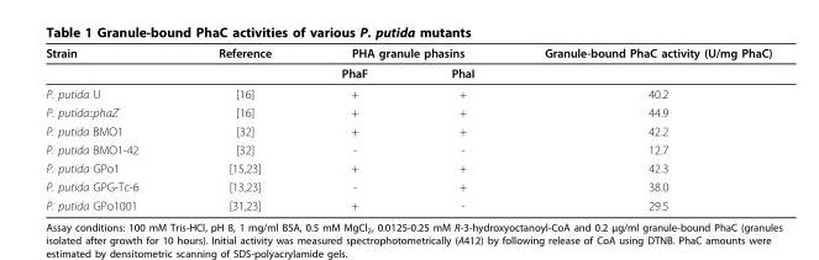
<table><thead><tr><td rowspan="2">Strain</td><td rowspan="2">Reference</td><td colspan="2">PHA granule phasins</td><td rowspan="2">Granule-bound PhaC activity (U/mg PhaC)</td></tr><tr><td>PhaF</td><td>PhaI</td></tr></thead><tbody><tr><td>P. putida U</td><td>[16]</td><td>+</td><td>+</td><td>40.2</td></tr><tr><td>P. putida::phaZ<sup>-</sup></td><td>[16]</td><td>+</td><td>+</td><td>44.9</td></tr><tr><td>P. putida BMO1</td><td>[32]</td><td>+</td><td>+</td><td>42.2</td></tr><tr><td>P. putida BMO1-42</td><td>[32]</td><td>-</td><td>-</td><td>12.7</td></tr><tr><td>P. putida GPo1</td><td>[15,23]</td><td>+</td><td>+</td><td>42.3</td></tr><tr><td>P. putida GPG-Tc-6</td><td>[13,23]</td><td>-</td><td>+</td><td>38.0</td></tr><tr><td>P. putida GPo1001</td><td>[31,23]</td><td>+</td><td>-</td><td>29.5</td></tr></tbody></table>